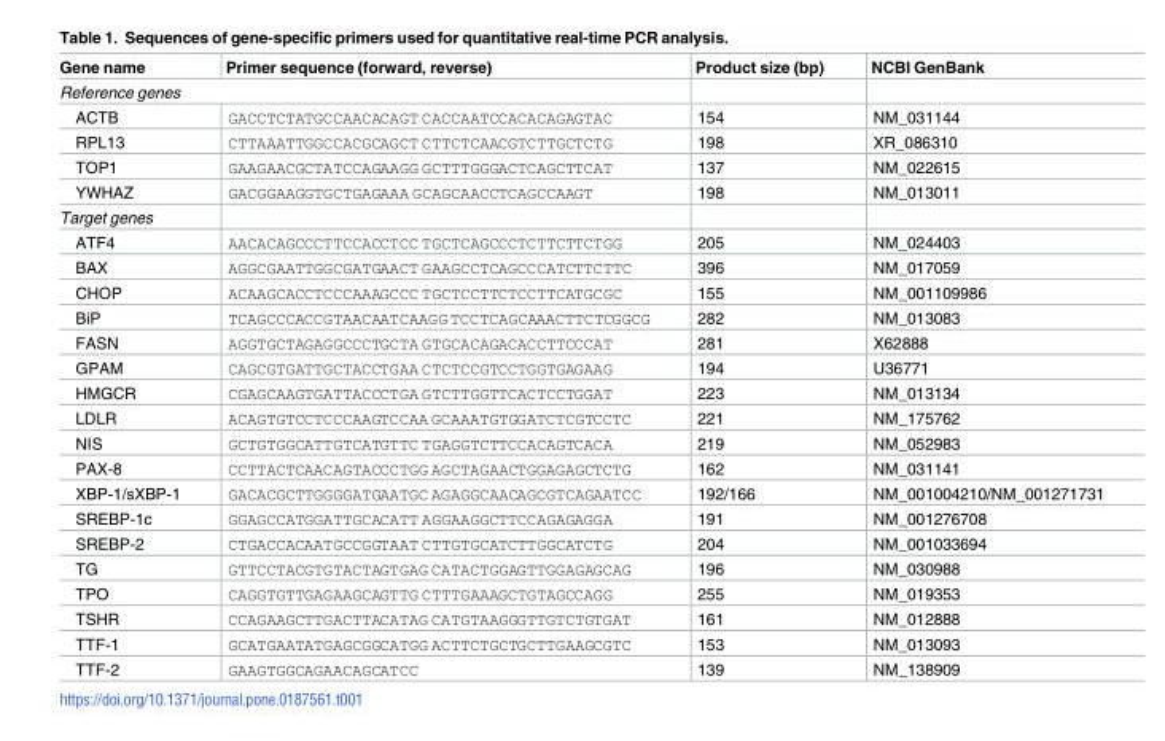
<table><thead><tr><td>Gene name</td><td>Primer sequence (forward, reverse)</td><td>Product size (bp)</td><td>NCBI GenBank</td></tr></thead><tbody><tr><td colspan="4">Reference genes</td></tr><tr><td>ACTB</td><td>GACCTCTATGCCAACACAGT CACCAATCCACACAGAGTAC</td><td>154</td><td>NM_031144</td></tr><tr><td>RPL13</td><td>CTTAAATTGGCCACGCAGCT CTTCTCAACGTCTTGCTCTG</td><td>198</td><td>XR_086310</td></tr><tr><td>TOP1</td><td>GAAGAACGCTATCCAGAAGG GCTTTGGGACTCAGCTTCAT</td><td>137</td><td>NM_022615</td></tr><tr><td>YWHAZ</td><td>GACGGAAGGTGCTGAGAAA GCAGCAACCTCAGCCAAGT</td><td>198</td><td>NM_013011</td></tr><tr><td colspan="4">Target genes</td></tr><tr><td>ATF4</td><td>AACACAGCCCTTCCACCTCC TGCTCAGCCCTCTTCTTCTGG</td><td>205</td><td>NM_024403</td></tr><tr><td>BAX</td><td>AGGCGAATTGGCGATGAACT GAAGCCTCAGCCCATCTTCTTC</td><td>396</td><td>NM_017059</td></tr><tr><td>CHOP</td><td>ACAAGCACCTCCCAAAGCCC TGCTCCTTCTCCTTCATGCGC</td><td>155</td><td>NM_001109986</td></tr><tr><td>BiP</td><td>TCAGCCCACCGTAACAATCAAGG TCCTCAGCAAACTTCTCGGCG</td><td>282</td><td>NM_013083</td></tr><tr><td>FASN</td><td>AGGTGCTAGAGGCCCTGCTA GTGCACAGACACCTTCCCAT</td><td>281</td><td>X62888</td></tr><tr><td>GPAM</td><td>CAGCGTGATTGCTACCTGAA CTCTCCGTCCTGGTGAGAAG</td><td>194</td><td>U36771</td></tr><tr><td>HMGCR</td><td>CGAGCAAGTGATTACCCTGA GTCTTGGTTCACTCCTGGAT</td><td>223</td><td>NM_013134</td></tr><tr><td>LDLR</td><td>ACAGTGTCCTCCCAAGTCCAA GCAAATGTGGATCTCGTCCTC</td><td>221</td><td>NM_175762</td></tr><tr><td>NIS</td><td>GCTGTGGCATTGTCATGTTC TGAGGTCTTCCACAGTCACA</td><td>219</td><td>NM_052983</td></tr><tr><td>PAX-8</td><td>CCTTACTCAACAGTACCCTGG AGCTAGAACTGGAGAGCTCTG</td><td>162</td><td>NM_031141</td></tr><tr><td>XBP-1/sXBP-1</td><td>GACACGCTTGGGGATGAATGC AGAGGCAACAGCGTCAGAATCC</td><td>192/166</td><td>NM_001004210/NM_001271731</td></tr><tr><td>SREBP-1c</td><td>GGAGCCATGGATTGCACATT AGGAAGGCTTCCAGAGAGGA</td><td>191</td><td>NM_001276708</td></tr><tr><td>SREBP-2</td><td>CTGACCACAATGCCGGTAAT CTTGTGCATCTTGGCATCTG</td><td>204</td><td>NM_001033694</td></tr><tr><td>TG</td><td>GTTCCTACGTGTACTAGTGAG CATACTGGAGTTGGAGAGCAG</td><td>196</td><td>NM_030988</td></tr><tr><td>TPO</td><td>CAGGTGTTGAGAAGCAGTTG CTTTGAAAGCTGTAGCCAGG</td><td>255</td><td>NM_019353</td></tr><tr><td>TSHR</td><td>CCAGAAGCTTGACTTACATAG CATGTAAGGGTTGTCTGTGAT</td><td>161</td><td>NM_012888</td></tr><tr><td>TTF-1</td><td>GCATGAATATGAGCGGCATGG ACTTCTGCTGCTTGAAGCGTC</td><td>153</td><td>NM_013093</td></tr><tr><td>TTF-2</td><td>GAAGTGGCAGAACAGCATCC</td><td>139</td><td>NM_138909</td></tr></tbody></table>